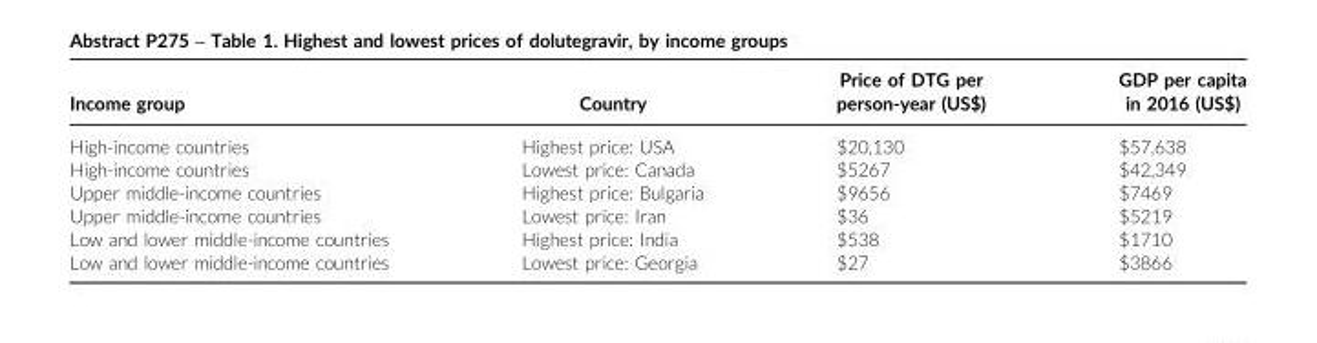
<table><thead><tr><td>Income group</td><td>Country</td><td>Price of DTG per person-year (US$)</td><td>GDP per capita in 2016 (US$)</td></tr></thead><tbody><tr><td>High-income countries</td><td>Highest price: USA</td><td>$20,130</td><td>$57,638</td></tr><tr><td>High-income countries</td><td>Lowest price: Canada</td><td>$5267</td><td>$42,349</td></tr><tr><td>Upper middle-income countries</td><td>Highest price: Bulgaria</td><td>$9656</td><td>$7469</td></tr><tr><td>Upper middle-income countries</td><td>Lowest price: Iran</td><td>$36</td><td>$5219</td></tr><tr><td>Low and lower middle-income countries</td><td>Highest price: India</td><td>$538</td><td>$1710</td></tr><tr><td>Low and lower middle-income countries</td><td>Lowest price: Georgia</td><td>$27</td><td>$3866</td></tr></tbody></table>